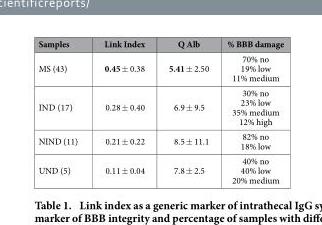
<table><thead><tr><td>Samples</td><td>Link Index</td><td>Q Alb</td><td>% BBB damage</td></tr></thead><tbody><tr><td>MS (43)</td><td>0.45 ± 0.38</td><td>5.41 ± 2.50</td><td>70% no 19% low 11% medium</td></tr><tr><td>IND (17)</td><td>0.28 ± 0.40</td><td>6.9 ± 9.5</td><td>30% no 23% low 35% medium 12% high</td></tr><tr><td>NIND (11)</td><td>0.21 ± 0.22</td><td>8.5 ± 11.1</td><td>82% no 18% low</td></tr><tr><td>UND (5)</td><td>0.11 ± 0.04</td><td>7.8 ± 2.5</td><td>40% no 40% low 20% medium</td></tr></tbody></table>